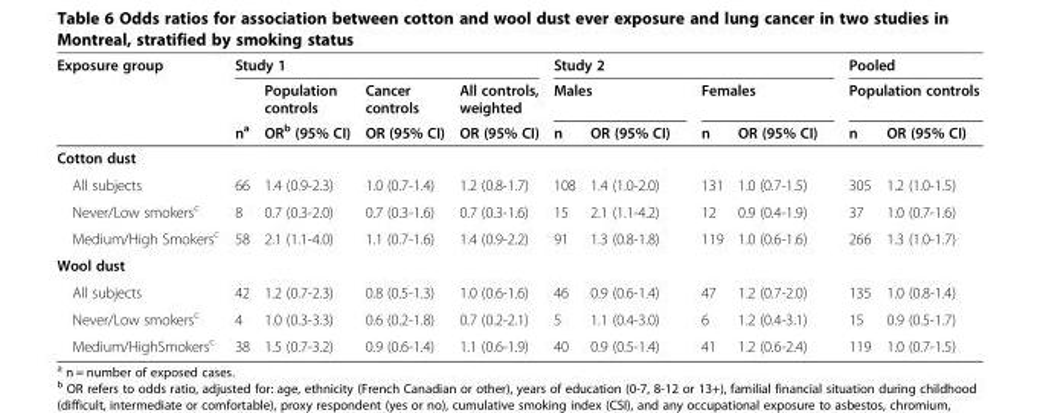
<table><thead><tr><td rowspan="3">Exposure group</td><td colspan="4">Study 1</td><td colspan="4">Study 2</td><td rowspan="2" colspan="2">Pooled Population controls</td></tr><tr><td rowspan="2">n<sup>a</sup></td><td rowspan="2">Population controls OR<sup>b</sup> (95% CI)</td><td rowspan="2">Cancer controls OR (95% CI)</td><td rowspan="2">All controls, weighted OR (95% CI)</td><td colspan="2">Males</td><td colspan="2">Females</td></tr><tr><td>n</td><td>OR (95% CI)</td><td>n</td><td>OR (95% CI)</td><td>n</td><td>OR (95% CI)</td></tr></thead><tbody><tr><td colspan="11">Cotton dust</td></tr><tr><td>All subjects</td><td>66</td><td>1.4 (0.9-2.3)</td><td>1.0 (0.7-1.4)</td><td>1.2 (0.8-1.7)</td><td>108</td><td>1.4 (1.0-2.0)</td><td>131</td><td>1.0 (0.7-1.5)</td><td>305</td><td>1.2 (1.0-1.5)</td></tr><tr><td>Never/Low smokers<sup>c</sup></td><td>8</td><td>0.7 (0.3-2.0)</td><td>0.7 (0.3-1.6)</td><td>0.7 (0.3-1.6)</td><td>15</td><td>2.1 (1.1-4.2)</td><td>12</td><td>0.9 (0.4-1.9)</td><td>37</td><td>1.0 (0.7-1.6)</td></tr><tr><td>Medium/High Smokers<sup>c</sup></td><td>58</td><td>2.1 (1.1-4.0)</td><td>1.1 (0.7-1.6)</td><td>1.4 (0.9-2.2)</td><td>91</td><td>1.3 (0.8-1.8)</td><td>119</td><td>1.0 (0.6-1.6)</td><td>266</td><td>1.3 (1.0-1.7)</td></tr><tr><td colspan="11">Wool dust</td></tr><tr><td>All subjects</td><td>42</td><td>1.2 (0.7-2.3)</td><td>0.8 (0.5-1.3)</td><td>1.0 (0.6-1.6)</td><td>46</td><td>0.9 (0.6-1.4)</td><td>47</td><td>1.2 (0.7-2.0)</td><td>135</td><td>1.0 (0.8-1.4)</td></tr><tr><td>Never/Low smokers<sup>c</sup></td><td>4</td><td>1.0 (0.3-3.3)</td><td>0.6 (0.2-1.8)</td><td>0.7 (0.2-2.1)</td><td>5</td><td>1.1 (0.4-3.0)</td><td>6</td><td>1.2 (0.4-3.1)</td><td>15</td><td>0.9 (0.5-1.7)</td></tr><tr><td>Medium/HighSmokers<sup>c</sup></td><td>38</td><td>1.5 (0.7-3.2)</td><td>0.9 (0.6-1.4)</td><td>1.1 (0.6-1.9)</td><td>40</td><td>0.9 (0.5-1.4)</td><td>41</td><td>1.2 (0.6-2.4)</td><td>119</td><td>1.0 (0.7-1.5)</td></tr></tbody></table>